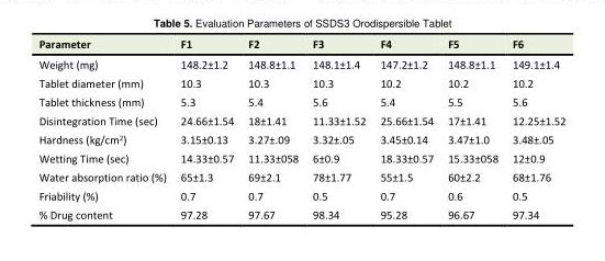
<table><tbody><tr><td>Parameter</td><td>F1</td><td>F2</td><td>F3</td><td>F4</td><td>F5</td><td>F6</td></tr><tr><td>Weight (mg)</td><td>148.2±1.2</td><td>148.8±1.1</td><td>148.1±1.4</td><td>147.2±1.2</td><td>148.8±1.1</td><td>149.1±1.4</td></tr><tr><td>Tablet diameter (mm)</td><td>10.3</td><td>10.3</td><td>10.3</td><td>10.2</td><td>10.2</td><td>10.2</td></tr><tr><td>Tablet thickness (mm)</td><td>5.3</td><td>5.4</td><td>5.6</td><td>5.4</td><td>5.5</td><td>5.6</td></tr><tr><td>Disintegration Time (sec)</td><td>24.66±1.54</td><td>18±1.41</td><td>11.33±1.52</td><td>25.66±1.54</td><td>17±1.41</td><td>12.25±1.52</td></tr><tr><td>Hardness (kg/cm<sup>2</sup>)</td><td>3.15±0.13</td><td>3.27±.09</td><td>3.32±.05</td><td>3.45±0.14</td><td>3.47±1.0</td><td>3.48±.05</td></tr><tr><td>Wetting Time (sec)</td><td>14.33±0.57</td><td>11.33±058</td><td>6±0.9</td><td>18.33±0.57</td><td>15.33±058</td><td>12±0.9</td></tr><tr><td>Water absorption ratio (%)</td><td>65±1.3</td><td>69±2.1</td><td>78±1.77</td><td>55±1.5</td><td>60±2.2</td><td>68±1.76</td></tr><tr><td>Friability (%)</td><td>0.7</td><td>0.7</td><td>0.5</td><td>0.7</td><td>0.6</td><td>0.5</td></tr><tr><td>% Drug content</td><td>97.28</td><td>97.67</td><td>98.34</td><td>95.28</td><td>96.67</td><td>97.34</td></tr></tbody></table>